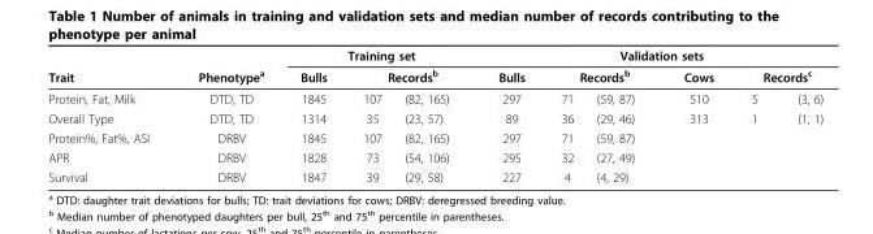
<table><thead><tr><td rowspan="3">Trait Protein, Fat, Milk</td><td rowspan="3">Phenotype<sup>a</sup> DTD, TD</td><td colspan="3">Training set</td><td colspan="6">Validation sets</td></tr><tr><td rowspan="2">Bulls 1845</td><td colspan="2">Records<sup>b</sup></td><td rowspan="2">Bulls 297</td><td colspan="2">Records<sup>b</sup></td><td rowspan="2">Cows 510</td><td colspan="2">Records<sup>c</sup></td></tr><tr><td>107</td><td>(82, 165)</td><td>71</td><td>(59, 87)</td><td>5</td><td>(3, 6)</td></tr></thead><tbody><tr><td>Overall Type</td><td>DTD, TD</td><td>1314</td><td>35</td><td>(23, 57)</td><td>89</td><td>36</td><td>(29, 46)</td><td>313</td><td>1</td><td>(1, 1)</td></tr><tr><td>Protein%, Fat%, ASI</td><td>DRBV</td><td>1845</td><td>107</td><td>(82, 165)</td><td>297</td><td>71</td><td>(59, 87)</td><td></td><td></td><td></td></tr><tr><td>APR</td><td>DRBV</td><td>1828</td><td>73</td><td>(54, 106)</td><td>295</td><td>32</td><td>(27, 49)</td><td></td><td></td><td></td></tr><tr><td>Survival</td><td>DRBV</td><td>1847</td><td>39</td><td>(29, 58)</td><td>227</td><td>4</td><td>(4, 29)</td><td></td><td></td><td></td></tr></tbody></table>